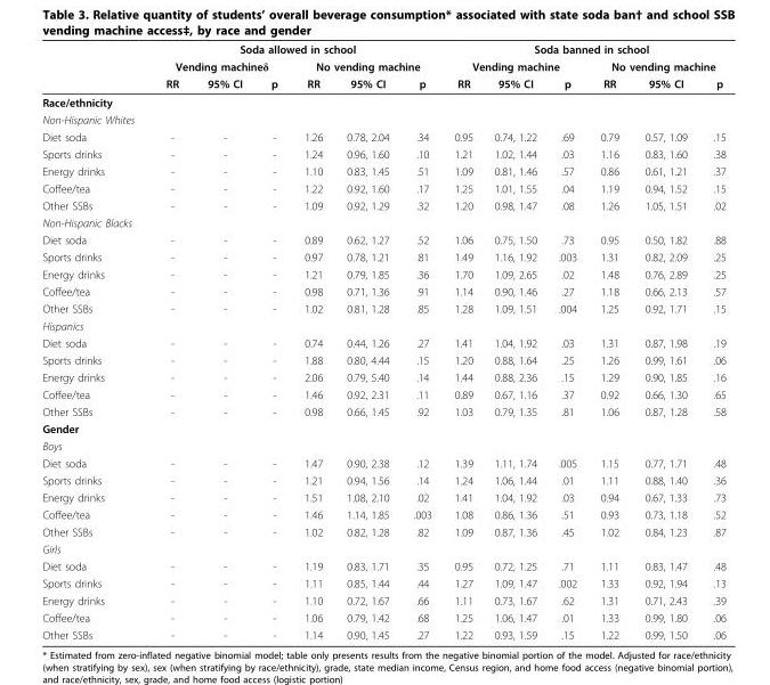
<table><thead><tr><td rowspan="3"></td><td colspan="6">Soda allowed in school</td><td colspan="6">Soda banned in school</td></tr><tr><td colspan="3">Vending machineδ</td><td colspan="3">No vending machine</td><td colspan="3">Vending machine</td><td colspan="3">No vending machine</td></tr><tr><td>RR</td><td>95% CI</td><td>p</td><td>RR</td><td>95% CI</td><td>p</td><td>RR</td><td>95% CI</td><td>p</td><td>RR</td><td>95% CI</td><td>p</td></tr></thead><tbody><tr><td colspan="13">Race/ethnicity</td></tr><tr><td colspan="13">Non-Hispanic Whites</td></tr><tr><td>Diet soda</td><td>-</td><td>-</td><td>-</td><td>1.26</td><td>0.78, 2.04</td><td>.34</td><td>0.95</td><td>0.74, 1.22</td><td>.69</td><td>0.79</td><td>0.57, 1.09</td><td>.15</td></tr><tr><td>Sports drinks</td><td>-</td><td>-</td><td>-</td><td>1.24</td><td>0.96, 1.60</td><td>.10</td><td>1.21</td><td>1.02, 1.44</td><td>.03</td><td>1.16</td><td>0.83, 1.60</td><td>.38</td></tr><tr><td>Energy drinks</td><td>-</td><td>-</td><td>-</td><td>1.10</td><td>0.83, 1.45</td><td>.51</td><td>1.09</td><td>0.81, 1.46</td><td>.57</td><td>0.86</td><td>0.61, 1.21</td><td>.37</td></tr><tr><td>Coffee/tea</td><td>-</td><td>-</td><td>-</td><td>1.22</td><td>0.92, 1.60</td><td>.17</td><td>1.25</td><td>1.01, 1.55</td><td>.04</td><td>1.19</td><td>0.94, 1.52</td><td>.15</td></tr><tr><td>Other SSBs</td><td>-</td><td>-</td><td>-</td><td>1.09</td><td>0.92, 1.29</td><td>.32</td><td>1.20</td><td>0.98, 1.47</td><td>.08</td><td>1.26</td><td>1.05, 1.51</td><td>.02</td></tr><tr><td colspan="13">Non-Hispanic Blacks</td></tr><tr><td>Diet soda</td><td>-</td><td>-</td><td>-</td><td>0.89</td><td>0.62, 1.27</td><td>.52</td><td>1.06</td><td>0.75, 1.50</td><td>.73</td><td>0.95</td><td>0.50, 1.82</td><td>.88</td></tr><tr><td>Sports drinks</td><td>-</td><td>-</td><td>-</td><td>0.97</td><td>0.78, 1.21</td><td>.81</td><td>1.49</td><td>1.16, 1.92</td><td>.003</td><td>1.31</td><td>0.82, 2.09</td><td>.25</td></tr><tr><td>Energy drinks</td><td>-</td><td>-</td><td>-</td><td>1.21</td><td>0.79, 1.85</td><td>.36</td><td>1.70</td><td>1.09, 2.65</td><td>.02</td><td>1.48</td><td>0.76, 2.89</td><td>.25</td></tr><tr><td>Coffee/tea</td><td>-</td><td>-</td><td>-</td><td>0.98</td><td>0.71, 1.36</td><td>.91</td><td>1.14</td><td>0.90, 1.46</td><td>.27</td><td>1.18</td><td>0.66, 2.13</td><td>.57</td></tr><tr><td>Other SSBs</td><td>-</td><td>-</td><td>-</td><td>1.02</td><td>0.81, 1.28</td><td>.85</td><td>1.28</td><td>1.09, 1.51</td><td>.004</td><td>1.25</td><td>0.92, 1.71</td><td>.15</td></tr><tr><td colspan="13">Hispanics</td></tr><tr><td>Diet soda</td><td>-</td><td>-</td><td>-</td><td>0.74</td><td>0.44, 1.26</td><td>.27</td><td>1.41</td><td>1.04, 1.92</td><td>.03</td><td>1.31</td><td>0.87, 1.98</td><td>.19</td></tr><tr><td>Sports drinks</td><td>-</td><td>-</td><td>-</td><td>1.88</td><td>0.80, 4.44</td><td>.15</td><td>1.20</td><td>0.88, 1.64</td><td>.25</td><td>1.26</td><td>0.99, 1.61</td><td>.06</td></tr><tr><td>Energy drinks</td><td>-</td><td>-</td><td>-</td><td>2.06</td><td>0.79, 5.40</td><td>.14</td><td>1.44</td><td>0.88, 2.36</td><td>.15</td><td>1.29</td><td>0.90, 1.85</td><td>.16</td></tr><tr><td>Coffee/tea</td><td>-</td><td>-</td><td>-</td><td>1.46</td><td>0.92, 2.31</td><td>.11</td><td>0.89</td><td>0.67, 1.16</td><td>.37</td><td>0.92</td><td>0.66, 1.30</td><td>.65</td></tr><tr><td>Other SSBs</td><td>-</td><td>-</td><td>-</td><td>0.98</td><td>0.66, 1.45</td><td>.92</td><td>1.03</td><td>0.79, 1.35</td><td>.81</td><td>1.06</td><td>0.87, 1.28</td><td>.58</td></tr><tr><td colspan="13">Gender</td></tr><tr><td colspan="13">Boys</td></tr><tr><td>Diet soda</td><td>-</td><td>-</td><td>-</td><td>1.47</td><td>0.90, 2.38</td><td>.12</td><td>1.39</td><td>1.11, 1.74</td><td>.005</td><td>1.15</td><td>0.77, 1.71</td><td>.48</td></tr><tr><td>Sports drinks</td><td>-</td><td>-</td><td>-</td><td>1.21</td><td>0.94, 1.56</td><td>.14</td><td>1.24</td><td>1.06, 1.44</td><td>.01</td><td>1.11</td><td>0.88, 1.40</td><td>.36</td></tr><tr><td>Energy drinks</td><td>-</td><td>-</td><td>-</td><td>1.51</td><td>1.08, 2.10</td><td>.02</td><td>1.41</td><td>1.04, 1.92</td><td>.03</td><td>0.94</td><td>0.67, 1.33</td><td>.73</td></tr><tr><td>Coffee/tea</td><td>-</td><td>-</td><td>-</td><td>1.46</td><td>1.14, 1.85</td><td>.003</td><td>1.08</td><td>0.86, 1.36</td><td>.51</td><td>0.93</td><td>0.73, 1.18</td><td>.52</td></tr><tr><td>Other SSBs</td><td>-</td><td>-</td><td>-</td><td>1.02</td><td>0.82, 1.28</td><td>.82</td><td>1.09</td><td>0.87, 1.36</td><td>.45</td><td>1.02</td><td>0.84, 1.23</td><td>.87</td></tr><tr><td colspan="13">Girls</td></tr><tr><td>Diet soda</td><td>-</td><td>-</td><td>-</td><td>1.19</td><td>0.83, 1.71</td><td>.35</td><td>0.95</td><td>0.72, 1.25</td><td>.71</td><td>1.11</td><td>0.83, 1.47</td><td>.48</td></tr><tr><td>Sports drinks</td><td>-</td><td>-</td><td>-</td><td>1.11</td><td>0.85, 1.44</td><td>.44</td><td>1.27</td><td>1.09, 1.47</td><td>.002</td><td>1.33</td><td>0.92, 1.94</td><td>.13</td></tr><tr><td>Energy drinks</td><td>-</td><td>-</td><td>-</td><td>1.10</td><td>0.72, 1.67</td><td>.66</td><td>1.11</td><td>0.73, 1.67</td><td>.62</td><td>1.31</td><td>0.71, 2.43</td><td>.39</td></tr><tr><td>Coffee/tea</td><td>-</td><td>-</td><td>-</td><td>1.06</td><td>0.79, 1.42</td><td>.68</td><td>1.25</td><td>1.06, 1.47</td><td>.01</td><td>1.33</td><td>0.99, 1.80</td><td>.06</td></tr><tr><td>Other SSBs</td><td>-</td><td>-</td><td>-</td><td>1.14</td><td>0.90, 1.45</td><td>.27</td><td>1.22</td><td>0.93, 1.59</td><td>.15</td><td>1.22</td><td>0.99, 1.50</td><td>.06</td></tr></tbody></table>